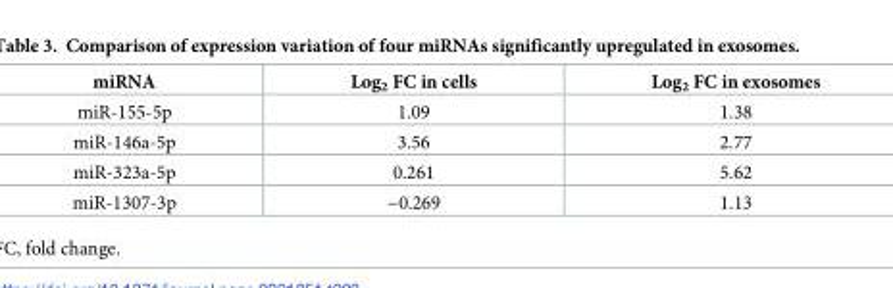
<table><thead><tr><td>miRNA</td><td>Log<sub>2</sub> FC in cells</td><td>Log<sub>2</sub> FC in exosomes</td></tr></thead><tbody><tr><td>miR-155-5p</td><td>1.09</td><td>1.38</td></tr><tr><td>miR-146a-5p</td><td>3.56</td><td>2.77</td></tr><tr><td>miR-323a-5p</td><td>0.261</td><td>5.62</td></tr><tr><td>miR-1307-3p</td><td>−0.269</td><td>1.13</td></tr></tbody></table>